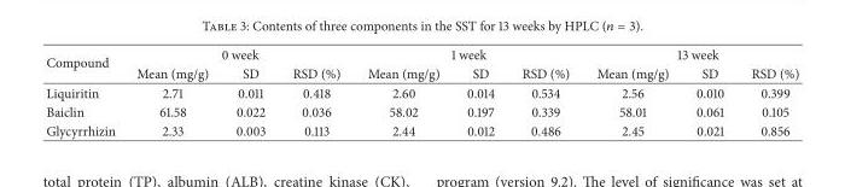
<table><thead><tr><td rowspan="2">Compound</td><td colspan="3">0 week</td><td colspan="3">1 week</td><td colspan="3">13 week</td></tr><tr><td>Mean (mg/g)</td><td>SD</td><td>RSD (%)</td><td>Mean (mg/g)</td><td>SD</td><td>RSD (%)</td><td>Mean (mg/g)</td><td>SD</td><td>RSD (%)</td></tr></thead><tbody><tr><td>Liquiritin</td><td>2.71</td><td>0.011</td><td>0.418</td><td>2.60</td><td>0.014</td><td>0.534</td><td>2.56</td><td>0.010</td><td>0.399</td></tr><tr><td>Baiclin</td><td>61.58</td><td>0.022</td><td>0.036</td><td>58.02</td><td>0.197</td><td>0.339</td><td>58.01</td><td>0.061</td><td>0.105</td></tr><tr><td>Glycyrrhizin</td><td>2.33</td><td>0.003</td><td>0.113</td><td>2.44</td><td>0.012</td><td>0.486</td><td>2.45</td><td>0.021</td><td>0.856</td></tr></tbody></table>